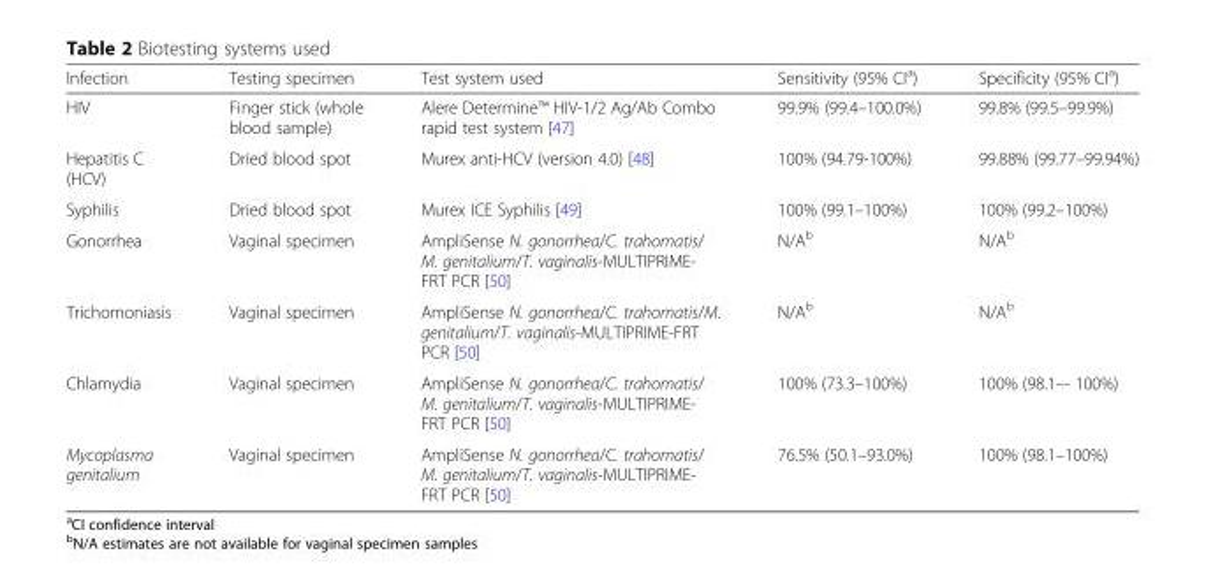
<table><thead><tr><td>Infection</td><td>Testing specimen</td><td>Test system used</td><td>Sensitivity (95% CI<sup>a</sup>)</td><td>Specificity (95% CI<sup>a</sup>)</td></tr></thead><tbody><tr><td>HIV</td><td>Finger stick (whole blood sample)</td><td>Alere Determine™ HIV-1/2 Ag/Ab Combo rapid test system [47]</td><td>99.9% (99.4–100.0%)</td><td>99.8% (99.5–99.9%)</td></tr><tr><td>Hepatitis C (HCV)</td><td>Dried blood spot</td><td>Murex anti-HCV (version 4.0) [48]</td><td>100% (94.79-100%)</td><td>99.88% (99.77–99.94%)</td></tr><tr><td>Syphilis</td><td>Dried blood spot</td><td>Murex ICE Syphilis [49]</td><td>100% (99.1–100%)</td><td>100% (99.2–100%)</td></tr><tr><td>Gonorrhea</td><td>Vaginal specimen</td><td>AmpliSense N. gonorrhea/C. trahomatis/ M. genitalium/T. vaginalis-MULTIPRIME- FRT PCR [50]</td><td>N/A<sup>b</sup></td><td>N/A<sup>b</sup></td></tr><tr><td>Trichomoniasis</td><td>Vaginal specimen</td><td>AmpliSense N. gonorrhea/C. trahomatis/M. genitalium/T. vaginalis-MULTIPRIME-FRT PCR [50]</td><td>N/A<sup>b</sup></td><td>N/A<sup>b</sup></td></tr><tr><td>Chlamydia</td><td>Vaginal specimen</td><td>AmpliSense N. gonorrhea/C. trahomatis/ M. genitalium/T. vaginalis-MULTIPRIME- FRT PCR [50]</td><td>100% (73.3–100%)</td><td>100% (98.1–- 100%)</td></tr><tr><td>Mycoplasma genitalium</td><td>Vaginal specimen</td><td>AmpliSense N. gonorrhea/C. trahomatis/ M. genitalium/T. vaginalis-MULTIPRIME- FRT PCR [50]</td><td>76.5% (50.1–93.0%)</td><td>100% (98.1–100%)</td></tr></tbody></table>